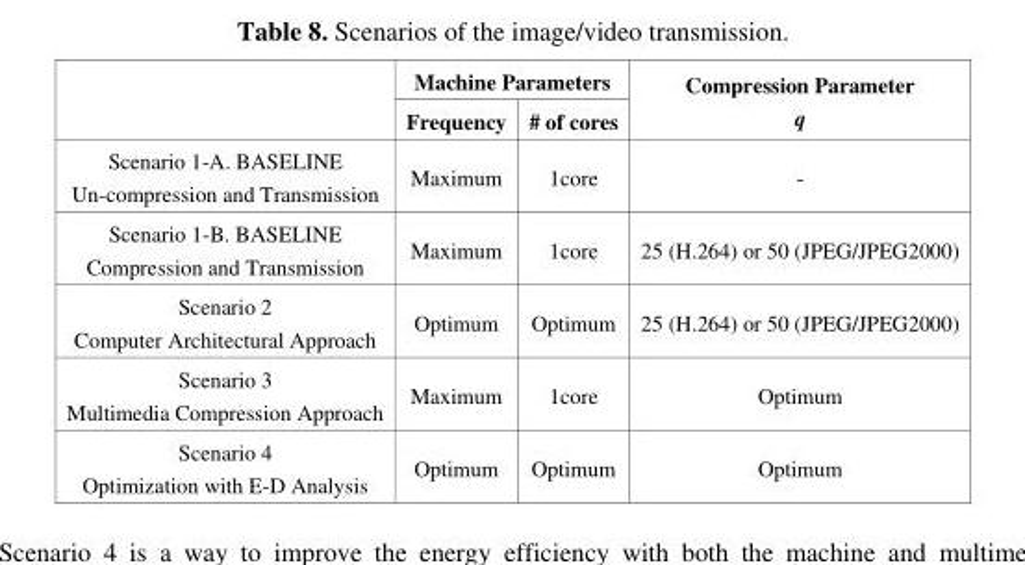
<table><thead><tr><td rowspan="2"></td><td colspan="2">Machine Parameters</td><td rowspan="2">Compression Parameter q</td></tr><tr><td>Frequency</td><td># of cores</td></tr></thead><tbody><tr><td>Scenario 1-A. BASELINE Un-compression and Transmission</td><td>Maximum</td><td>1core</td><td>-</td></tr><tr><td>Scenario 1-B. BASELINE Compression and Transmission</td><td>Maximum</td><td>1core</td><td>25 (H.264) or 50 (JPEG/JPEG2000)</td></tr><tr><td>Scenario 2 Computer Architectural Approach</td><td>Optimum</td><td>Optimum</td><td>25 (H.264) or 50 (JPEG/JPEG2000)</td></tr><tr><td>Scenario 3 Multimedia Compression Approach</td><td>Maximum</td><td>1core</td><td>Optimum</td></tr><tr><td>Scenario 4 Optimization with E-D Analysis</td><td>Optimum</td><td>Optimum</td><td>Optimum</td></tr></tbody></table>